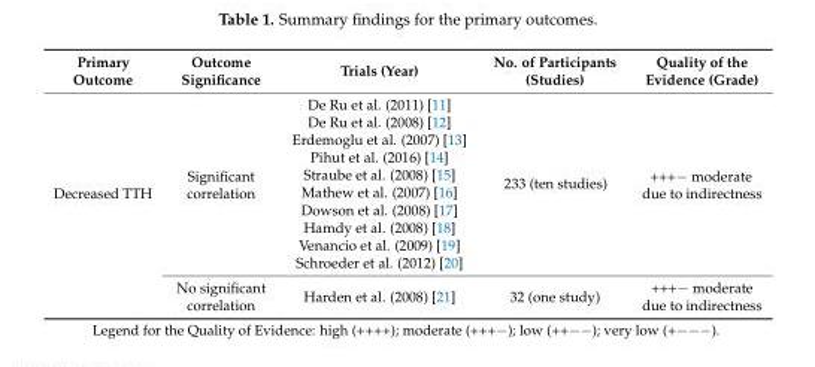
<table><thead><tr><td>Primary Outcome</td><td>Outcome Significance</td><td>Trials (Year)</td><td>No. of Participants (Studies)</td><td>Quality of the Evidence (Grade)</td></tr></thead><tbody><tr><td rowspan="11">Decreased TTH</td><td rowspan="10">Significant correlation</td><td>De Ru et al. (2011) [11]</td><td rowspan="10">233 (ten studies)</td><td rowspan="10">+++− moderate due to indirectness</td></tr><tr><td>De Ru et al. (2008) [12]</td></tr><tr><td>Erdemoglu et al. (2007) [13]</td></tr><tr><td>Pihut et al. (2016) [14]</td></tr><tr><td>Straube et al. (2008) [15]</td></tr><tr><td>Mathew et al. (2007) [16]</td></tr><tr><td>Dowson et al. (2008) [17]</td></tr><tr><td>Hamdy et al. (2008) [18]</td></tr><tr><td>Venancio et al. (2009) [19]</td></tr><tr><td>Schroeder et al. (2012) [20]</td></tr><tr><td>No significant correlation</td><td>Harden et al. (2008) [21]</td><td>32 (one study)</td><td>+++− moderate due to indirectness</td></tr></tbody></table>